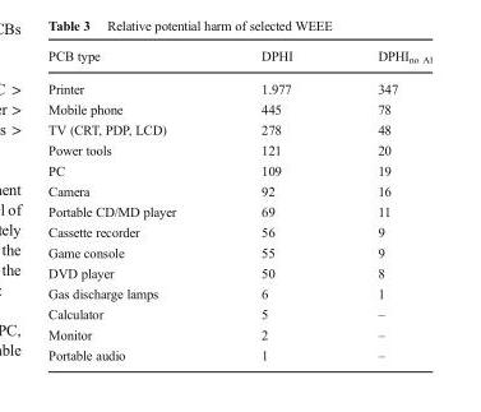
<table><thead><tr><td>PCB type</td><td>DPHI</td><td>DPHI<sub>no Al</sub></td></tr></thead><tbody><tr><td>Printer</td><td>1.977</td><td>347</td></tr><tr><td>Mobile phone</td><td>445</td><td>78</td></tr><tr><td>TV (CRT, PDP, LCD)</td><td>278</td><td>48</td></tr><tr><td>Power tools</td><td>121</td><td>20</td></tr><tr><td>PC</td><td>109</td><td>19</td></tr><tr><td>Camera</td><td>92</td><td>16</td></tr><tr><td>Portable CD/MD player</td><td>69</td><td>11</td></tr><tr><td>Cassette recorder</td><td>56</td><td>9</td></tr><tr><td>Game console</td><td>55</td><td>9</td></tr><tr><td>DVD player</td><td>50</td><td>8</td></tr><tr><td>Gas discharge lamps</td><td>6</td><td>1</td></tr><tr><td>Calculator</td><td>5</td><td>–</td></tr><tr><td>Monitor</td><td>2</td><td>–</td></tr><tr><td>Portable audio</td><td>1</td><td>–</td></tr></tbody></table>